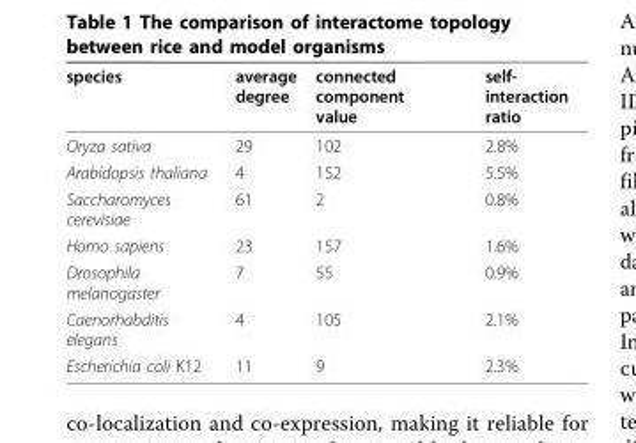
<table><thead><tr><td>species</td><td>average degree</td><td>connected component value</td><td>self- interaction ratio</td></tr></thead><tbody><tr><td>Oryza sativa</td><td>29</td><td>102</td><td>2.8%</td></tr><tr><td>Arabidopsis thaliana</td><td>4</td><td>152</td><td>5.5%</td></tr><tr><td>Saccharomyces cerevisiae</td><td>61</td><td>2</td><td>0.8%</td></tr><tr><td>Homo sapiens</td><td>23</td><td>157</td><td>1.6%</td></tr><tr><td>Drosophila melanogaster</td><td>7</td><td>55</td><td>0.9%</td></tr><tr><td>Caenorhabditis elegans</td><td>4</td><td>105</td><td>2.1%</td></tr><tr><td>Escherichia coli K12</td><td>11</td><td>9</td><td>2.3%</td></tr></tbody></table>